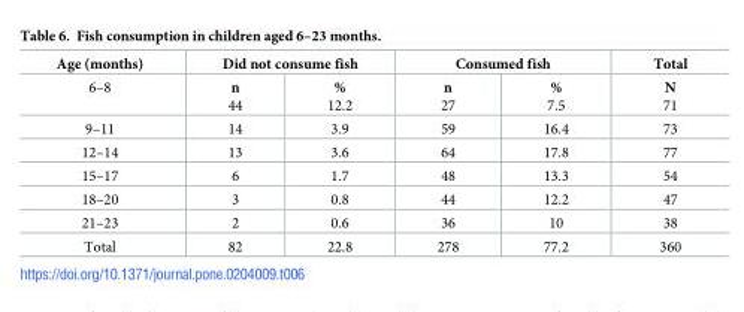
<table><thead><tr><td rowspan="2">Age (months) 6–8</td><td colspan="2">Did not consume fish</td><td colspan="2">Consumed fish</td><td rowspan="2">Total N 71</td></tr><tr><td>n 44</td><td>% 12.2</td><td>n 27</td><td>% 7.5</td></tr></thead><tbody><tr><td>9–11</td><td>14</td><td>3.9</td><td>59</td><td>16.4</td><td>73</td></tr><tr><td>12–14</td><td>13</td><td>3.6</td><td>64</td><td>17.8</td><td>77</td></tr><tr><td>15–17</td><td>6</td><td>1.7</td><td>48</td><td>13.3</td><td>54</td></tr><tr><td>18–20</td><td>3</td><td>0.8</td><td>44</td><td>12.2</td><td>47</td></tr><tr><td>21–23</td><td>2</td><td>0.6</td><td>36</td><td>10</td><td>38</td></tr><tr><td>Total</td><td>82</td><td>22.8</td><td>278</td><td>77.2</td><td>360</td></tr></tbody></table>